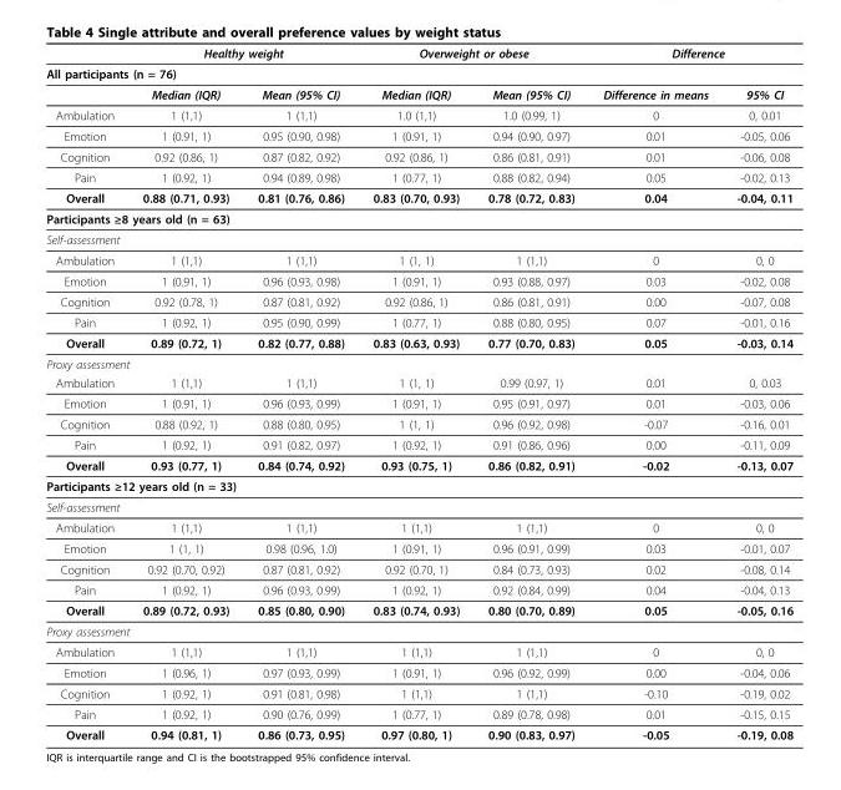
<table><thead><tr><td></td><td colspan="2">Healthy weight</td><td colspan="2">Overweight or obese</td><td colspan="2">Difference</td></tr><tr><td colspan="7">All participants (n = 76)</td></tr><tr><td></td><td>Median (IQR)</td><td>Mean (95% CI)</td><td>Median (IQR)</td><td>Mean (95% CI)</td><td>Difference in means</td><td>95% CI</td></tr></thead><tbody><tr><td>Ambulation</td><td>1 (1,1)</td><td>1 (1,1)</td><td>1.0 (1,1)</td><td>1.0 (0.99, 1)</td><td>0</td><td>0, 0.01</td></tr><tr><td>Emotion</td><td>1 (0.91, 1)</td><td>0.95 (0.90, 0.98)</td><td>1 (0.91, 1)</td><td>0.94 (0.90, 0.97)</td><td>0.01</td><td>-0.05, 0.06</td></tr><tr><td>Cognition</td><td>0.92 (0.86, 1)</td><td>0.87 (0.82, 0.92)</td><td>0.92 (0.86, 1)</td><td>0.86 (0.81, 0.91)</td><td>0.01</td><td>-0.06, 0.08</td></tr><tr><td>Pain</td><td>1 (0.92, 1)</td><td>0.94 (0.89, 0.98)</td><td>1 (0.77, 1)</td><td>0.88 (0.82, 0.94)</td><td>0.05</td><td>-0.02, 0.13</td></tr><tr><td>Overall</td><td>0.88 (0.71, 0.93)</td><td>0.81 (0.76, 0.86)</td><td>0.83 (0.70, 0.93)</td><td>0.78 (0.72, 0.83)</td><td>0.04</td><td>-0.04, 0.11</td></tr><tr><td colspan="7">Participants ≥8 years old (n = 63)</td></tr><tr><td colspan="7">Self-assessment</td></tr><tr><td>Ambulation</td><td>1 (1,1)</td><td>1 (1,1)</td><td>1 (1, 1)</td><td>1 (1,1)</td><td>0</td><td>0, 0</td></tr><tr><td>Emotion</td><td>1 (0.91, 1)</td><td>0.96 (0.93, 0.98)</td><td>1 (0.91, 1)</td><td>0.93 (0.88, 0.97)</td><td>0.03</td><td>-0.02, 0.08</td></tr><tr><td>Cognition</td><td>0.92 (0.78, 1)</td><td>0.87 (0.81, 0.92)</td><td>0.92 (0.86, 1)</td><td>0.86 (0.81, 0.91)</td><td>0.00</td><td>-0.07, 0.08</td></tr><tr><td>Pain</td><td>1 (0.92, 1)</td><td>0.95 (0.90, 0.99)</td><td>1 (0.77, 1)</td><td>0.88 (0.80, 0.95)</td><td>0.07</td><td>-0.01, 0.16</td></tr><tr><td>Overall</td><td>0.89 (0.72, 1)</td><td>0.82 (0.77, 0.88)</td><td>0.83 (0.63, 0.93)</td><td>0.77 (0.70, 0.83)</td><td>0.05</td><td>-0.03, 0.14</td></tr><tr><td colspan="7">Proxy assessment</td></tr><tr><td>Ambulation</td><td>1 (1,1)</td><td>1 (1,1)</td><td>1 (1, 1)</td><td>0.99 (0.97, 1)</td><td>0.01</td><td>0, 0.03</td></tr><tr><td>Emotion</td><td>1 (0.91, 1)</td><td>0.96 (0.93, 0.99)</td><td>1 (0.91, 1)</td><td>0.95 (0.91, 0.97)</td><td>0.01</td><td>-0.03, 0.06</td></tr><tr><td>Cognition</td><td>0.88 (0.92, 1)</td><td>0.88 (0.80, 0.95)</td><td>1 (1, 1)</td><td>0.96 (0.92, 0.98)</td><td>-0.07</td><td>-0.16, 0.01</td></tr><tr><td>Pain</td><td>1 (0.92, 1)</td><td>0.91 (0.82, 0.97)</td><td>1 (0.92, 1)</td><td>0.91 (0.86, 0.96)</td><td>0.00</td><td>-0.11, 0.09</td></tr><tr><td>Overall</td><td>0.93 (0.77, 1)</td><td>0.84 (0.74, 0.92)</td><td>0.93 (0.75, 1)</td><td>0.86 (0.82, 0.91)</td><td>-0.02</td><td>-0.13, 0.07</td></tr><tr><td colspan="7">Participants ≥12 years old (n = 33)</td></tr><tr><td colspan="7">Self-assessment</td></tr><tr><td>Ambulation</td><td>1 (1,1)</td><td>1 (1,1)</td><td>1 (1,1)</td><td>1 (1,1)</td><td>0</td><td>0, 0</td></tr><tr><td>Emotion</td><td>1 (1, 1)</td><td>0.98 (0.96, 1.0)</td><td>1 (0.91, 1)</td><td>0.96 (0.91, 0.99)</td><td>0.03</td><td>-0.01, 0.07</td></tr><tr><td>Cognition</td><td>0.92 (0.70, 0.92)</td><td>0.87 (0.81, 0.92)</td><td>0.92 (0.70, 1)</td><td>0.84 (0.73, 0.93)</td><td>0.02</td><td>-0.08, 0.14</td></tr><tr><td>Pain</td><td>1 (0.92, 1)</td><td>0.96 (0.93, 0.99)</td><td>1 (0.92, 1)</td><td>0.92 (0.84, 0.99)</td><td>0.04</td><td>-0.04, 0.13</td></tr><tr><td>Overall</td><td>0.89 (0.72, 0.93)</td><td>0.85 (0.80, 0.90)</td><td>0.83 (0.74, 0.93)</td><td>0.80 (0.70, 0.89)</td><td>0.05</td><td>-0.05, 0.16</td></tr><tr><td colspan="7">Proxy assessment</td></tr><tr><td>Ambulation</td><td>1 (1,1)</td><td>1 (1,1)</td><td>1 (1,1)</td><td>1 (1,1)</td><td>0</td><td>0, 0</td></tr><tr><td>Emotion</td><td>1 (0.96, 1)</td><td>0.97 (0.93, 0.99)</td><td>1 (0.91, 1)</td><td>0.96 (0.92, 0.99)</td><td>0.00</td><td>-0.04, 0.06</td></tr><tr><td>Cognition</td><td>1 (0.92, 1)</td><td>0.91 (0.81, 0.98)</td><td>1 (1,1)</td><td>1 (1,1)</td><td>-0.10</td><td>-0.19, 0.02</td></tr><tr><td>Pain</td><td>1 (0.92, 1)</td><td>0.90 (0.76, 0.99)</td><td>1 (0.77, 1)</td><td>0.89 (0.78, 0.98)</td><td>0.01</td><td>-0.15, 0.15</td></tr><tr><td>Overall</td><td>0.94 (0.81, 1)</td><td>0.86 (0.73, 0.95)</td><td>0.97 (0.80, 1)</td><td>0.90 (0.83, 0.97)</td><td>-0.05</td><td>-0.19, 0.08</td></tr></tbody></table>